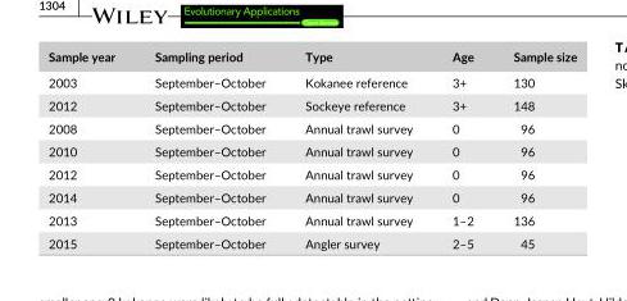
<table><thead><tr><td>Sample year</td><td>Sampling period</td><td>Type</td><td>Age</td><td>Sample size</td></tr></thead><tbody><tr><td>2003</td><td>September–October</td><td>Kokanee reference</td><td>3+</td><td>130</td></tr><tr><td>2012</td><td>September–October</td><td>Sockeye reference</td><td>3+</td><td>148</td></tr><tr><td>2008</td><td>September–October</td><td>Annual trawl survey</td><td>0</td><td>96</td></tr><tr><td>2010</td><td>September–October</td><td>Annual trawl survey</td><td>0</td><td>96</td></tr><tr><td>2012</td><td>September–October</td><td>Annual trawl survey</td><td>0</td><td>96</td></tr><tr><td>2014</td><td>September–October</td><td>Annual trawl survey</td><td>0</td><td>96</td></tr><tr><td>2013</td><td>September–October</td><td>Annual trawl survey</td><td>1–2</td><td>136</td></tr><tr><td>2015</td><td>September–October</td><td>Angler survey</td><td>2–5</td><td>45</td></tr></tbody></table>